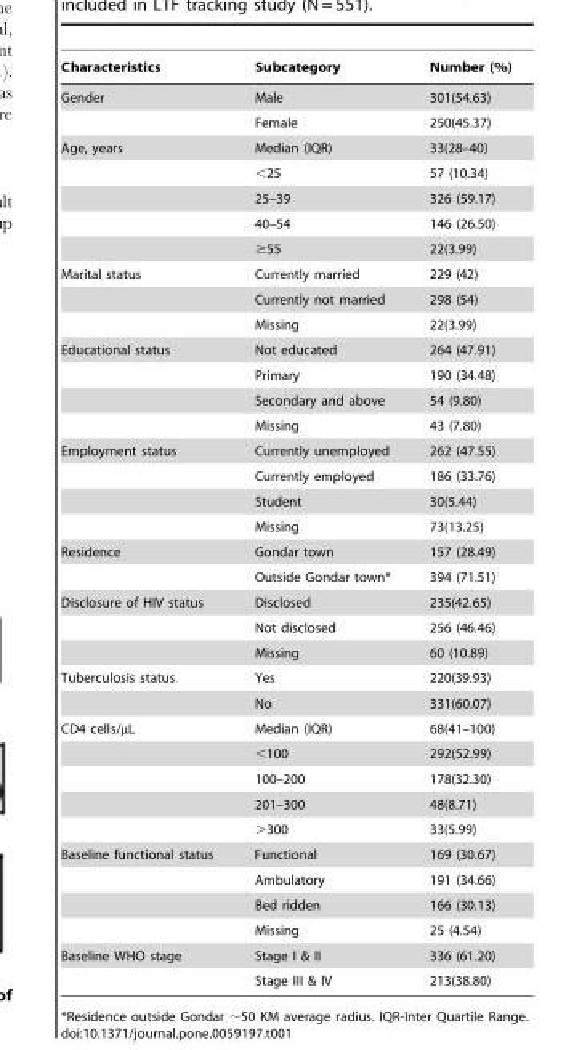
<table><thead><tr><td>Characteristics</td><td>Subcategory</td><td>Number (%)</td></tr></thead><tbody><tr><td rowspan="2">Gender</td><td>Male</td><td>301(54.63)</td></tr><tr><td>Female</td><td>250(45.37)</td></tr><tr><td rowspan="5">Age, years</td><td>Median (IQR)</td><td>33(28–40)</td></tr><tr><td>&lt;25</td><td>57 (10.34)</td></tr><tr><td>25–39</td><td>326 (59.17)</td></tr><tr><td>40–54</td><td>146 (26.50)</td></tr><tr><td>≥55</td><td>22(3.99)</td></tr><tr><td rowspan="3">Marital status</td><td>Currently married</td><td>229 (42)</td></tr><tr><td>Currently not married</td><td>298 (54)</td></tr><tr><td>Missing</td><td>22(3.99)</td></tr><tr><td rowspan="4">Educational status</td><td>Not educated</td><td>264 (47.91)</td></tr><tr><td>Primary</td><td>190 (34.48)</td></tr><tr><td>Secondary and above</td><td>54 (9.80)</td></tr><tr><td>Missing</td><td>43 (7.80)</td></tr><tr><td rowspan="4">Employment status</td><td>Currently unemployed</td><td>262 (47.55)</td></tr><tr><td>Currently employed</td><td>186 (33.76)</td></tr><tr><td>Student</td><td>30(5.44)</td></tr><tr><td>Missing</td><td>73(13.25)</td></tr><tr><td rowspan="2">Residence</td><td>Gondar town</td><td>157 (28.49)</td></tr><tr><td>Outside Gondar town*</td><td>394 (71.51)</td></tr><tr><td rowspan="3">Disclosure of HIV status</td><td>Disclosed</td><td>235(42.65)</td></tr><tr><td>Not disclosed</td><td>256 (46.46)</td></tr><tr><td>Missing</td><td>60 (10.89)</td></tr><tr><td rowspan="2">Tuberculosis status</td><td>Yes</td><td>220(39.93)</td></tr><tr><td>No</td><td>331(60.07)</td></tr><tr><td rowspan="5">CD4 cells/µL</td><td>Median (IQR)</td><td>68(41–100)</td></tr><tr><td>&lt;100</td><td>292(52.99)</td></tr><tr><td>100–200</td><td>178(32.30)</td></tr><tr><td>201–300</td><td>48(8.71)</td></tr><tr><td>&gt;300</td><td>33(5.99)</td></tr><tr><td rowspan="4">Baseline functional status</td><td>Functional</td><td>169 (30.67)</td></tr><tr><td>Ambulatory</td><td>191 (34.66)</td></tr><tr><td>Bed ridden</td><td>166 (30.13)</td></tr><tr><td>Missing</td><td>25 (4.54)</td></tr><tr><td rowspan="2">Baseline WHO stage</td><td>Stage I &amp; II</td><td>336 (61.20)</td></tr><tr><td>Stage III &amp; IV</td><td>213(38.80)</td></tr></tbody></table>